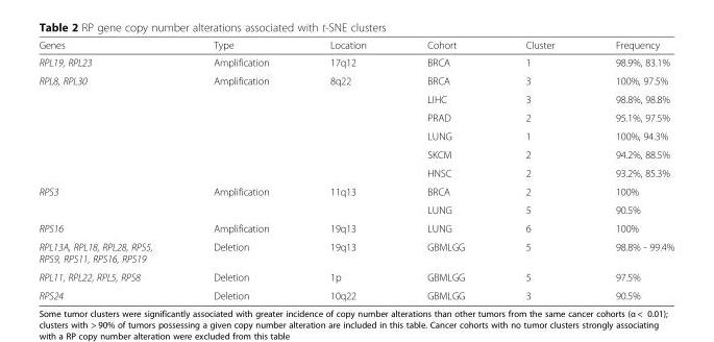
<table><thead><tr><td>Genes</td><td>Type</td><td>Location</td><td>Cohort</td><td>Cluster</td><td>Frequency</td></tr></thead><tbody><tr><td>RPL19, RPL23</td><td>Amplification</td><td>17q12</td><td>BRCA</td><td>1</td><td>98.9%, 83.1%</td></tr><tr><td rowspan="6">RPL8, RPL30</td><td>Amplification</td><td>8q22</td><td>BRCA</td><td>3</td><td>100%, 97.5%</td></tr><tr><td></td><td></td><td>LIHC</td><td>3</td><td>98.8%, 98.8%</td></tr><tr><td></td><td></td><td>PRAD</td><td>2</td><td>95.1%, 97.5%</td></tr><tr><td></td><td></td><td>LUNG</td><td>1</td><td>100%, 94.3%</td></tr><tr><td></td><td></td><td>SKCM</td><td>2</td><td>94.2%, 88.5%</td></tr><tr><td></td><td></td><td>HNSC</td><td>2</td><td>93.2%, 85.3%</td></tr><tr><td rowspan="2">RPS3</td><td>Amplification</td><td>11q13</td><td>BRCA</td><td>2</td><td>100%</td></tr><tr><td></td><td></td><td>LUNG</td><td>5</td><td>90.5%</td></tr><tr><td>RPS16</td><td>Amplification</td><td>19q13</td><td>LUNG</td><td>6</td><td>100%</td></tr><tr><td>RPL13A, RPL18, RPL28, RPS5, RPS9, RPS11, RPS16, RPS19</td><td>Deletion</td><td>19q13</td><td>GBMLGG</td><td>5</td><td>98.8% - 99.4%</td></tr><tr><td>RPL11, RPL22, RPL5, RPS8</td><td>Deletion</td><td>1p</td><td>GBMLGG</td><td>5</td><td>97.5%</td></tr><tr><td>RPS24</td><td>Deletion</td><td>10q22</td><td>GBMLGG</td><td>3</td><td>90.5%</td></tr></tbody></table>